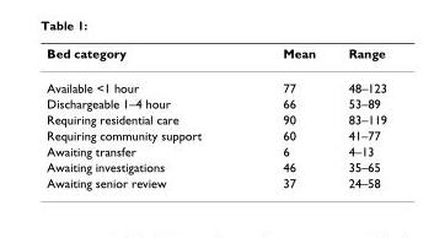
<table><thead><tr><td>Bed category</td><td>Mean</td><td>Range</td></tr></thead><tbody><tr><td>Available &lt;1 hour</td><td>77</td><td>48–123</td></tr><tr><td>Dischargeable 1–4 hour</td><td>66</td><td>53–89</td></tr><tr><td>Requiring residential care</td><td>90</td><td>83–119</td></tr><tr><td>Requiring community support</td><td>60</td><td>41–77</td></tr><tr><td>Awaiting transfer</td><td>6</td><td>4–13</td></tr><tr><td>Awaiting investigations</td><td>46</td><td>35–65</td></tr><tr><td>Awaiting senior review</td><td>37</td><td>24–58</td></tr></tbody></table>